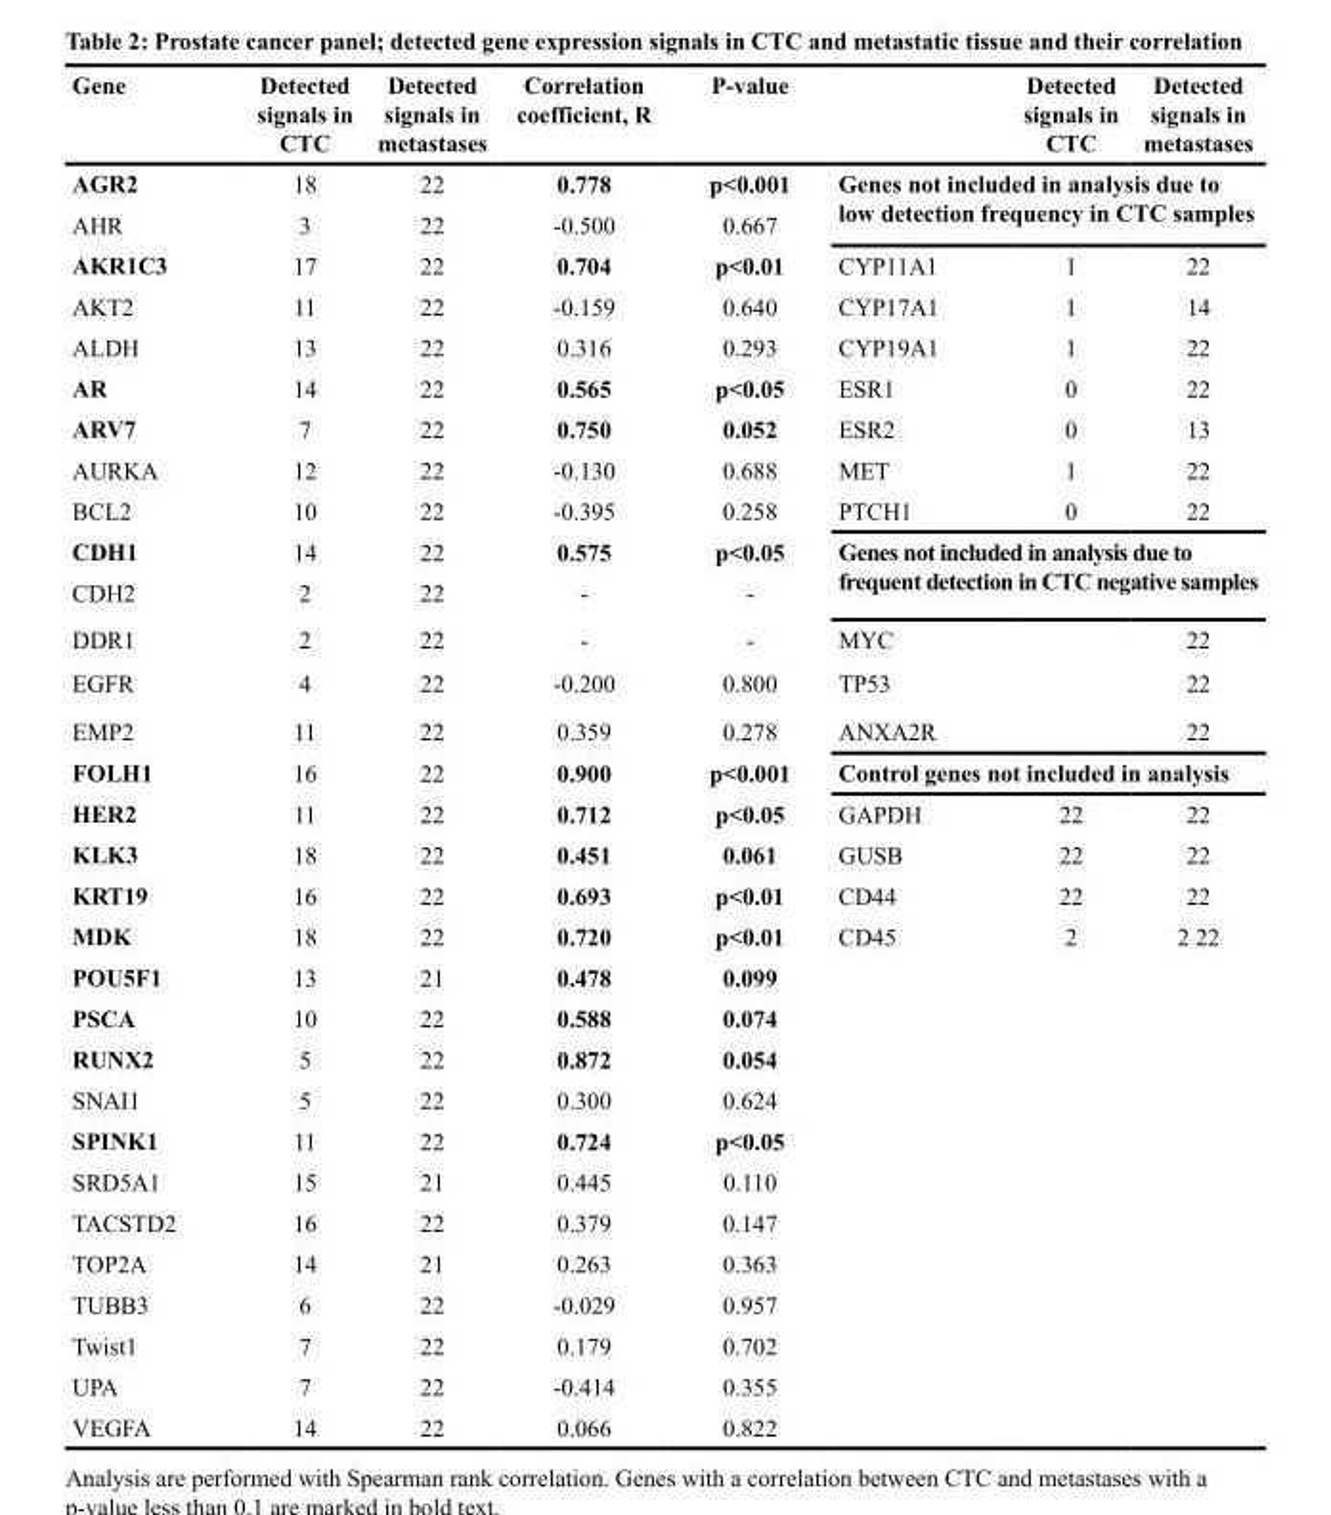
<table><thead><tr><td>Gene</td><td>Detected signals in CTC</td><td>Detected signals in metastases</td><td>Correlation coefficient, R</td><td>P-value</td><td></td><td>Detected signals in CTC</td><td>Detected signals in metastases</td></tr></thead><tbody><tr><td>AGR2</td><td>18</td><td>22</td><td>0.778</td><td>p&lt;0.001</td><td rowspan="2" colspan="3">Genes not included in analysis due to low detection frequency in CTC samples</td></tr><tr><td>AHR</td><td>3</td><td>22</td><td>-0.500</td><td>0.667</td></tr><tr><td>AKR1C3</td><td>17</td><td>22</td><td>0.704</td><td>p&lt;0.01</td><td>CYP11A1</td><td>1</td><td>22</td></tr><tr><td>AKT2</td><td>11</td><td>22</td><td>-0.159</td><td>0.640</td><td>CYP17A1</td><td>1</td><td>14</td></tr><tr><td>ALDH</td><td>13</td><td>22</td><td>0.316</td><td>0.293</td><td>CYP19A1</td><td>1</td><td>22</td></tr><tr><td>AR</td><td>14</td><td>22</td><td>0.565</td><td>p&lt;0.05</td><td>ESR1</td><td>0</td><td>22</td></tr><tr><td>ARV7</td><td>7</td><td>22</td><td>0.750</td><td>0.052</td><td>ESR2</td><td>0</td><td>13</td></tr><tr><td>AURKA</td><td>12</td><td>22</td><td>-0.130</td><td>0.688</td><td>MET</td><td>1</td><td>22</td></tr><tr><td>BCL2</td><td>10</td><td>22</td><td>-0.395</td><td>0.258</td><td>PTCH1</td><td>0</td><td>22</td></tr><tr><td>CDH1</td><td>14</td><td>22</td><td>0.575</td><td>p&lt;0.05</td><td rowspan="2" colspan="3">Genes not included in analysis due to frequent detection in CTC negative samples</td></tr><tr><td>CDH2</td><td>2</td><td>22</td><td>-</td><td>-</td></tr><tr><td>DDR1</td><td>2</td><td>22</td><td>-</td><td>-</td><td>MYC</td><td></td><td>22</td></tr><tr><td>EGFR</td><td>4</td><td>22</td><td>-0.200</td><td>0.800</td><td>TP53</td><td></td><td>22</td></tr><tr><td>EMP2</td><td>11</td><td>22</td><td>0.359</td><td>0.278</td><td>ANXA2R</td><td></td><td>22</td></tr><tr><td>FOLH1</td><td>16</td><td>22</td><td>0.900</td><td>p&lt;0.001</td><td colspan="3">Control genes not included in analysis</td></tr><tr><td>HER2</td><td>11</td><td>22</td><td>0.712</td><td>p&lt;0.05</td><td>GAPDH</td><td>22</td><td>22</td></tr><tr><td>KLK3</td><td>18</td><td>22</td><td>0.451</td><td>0.061</td><td>GUSB</td><td>22</td><td>22</td></tr><tr><td>KRT19</td><td>16</td><td>22</td><td>0.693</td><td>p&lt;0.01</td><td>CD44</td><td>22</td><td>22</td></tr><tr><td>MDK</td><td>18</td><td>22</td><td>0.720</td><td>p&lt;0.01</td><td>CD45</td><td>2</td><td>2 22</td></tr><tr><td>POU5F1</td><td>13</td><td>21</td><td>0.478</td><td>0.099</td><td></td><td></td><td></td></tr><tr><td>PSCA</td><td>10</td><td>22</td><td>0.588</td><td>0.074</td><td></td><td></td><td></td></tr><tr><td>RUNX2</td><td>5</td><td>22</td><td>0.872</td><td>0.054</td><td></td><td></td><td></td></tr><tr><td>SNAI1</td><td>5</td><td>22</td><td>0.300</td><td>0.624</td><td></td><td></td><td></td></tr><tr><td>SPINK1</td><td>11</td><td>22</td><td>0.724</td><td>p&lt;0.05</td><td></td><td></td><td></td></tr><tr><td>SRD5A1</td><td>15</td><td>21</td><td>0.445</td><td>0.110</td><td></td><td></td><td></td></tr><tr><td>TACSTD2</td><td>16</td><td>22</td><td>0.379</td><td>0.147</td><td></td><td></td><td></td></tr><tr><td>TOP2A</td><td>14</td><td>21</td><td>0.263</td><td>0.363</td><td></td><td></td><td></td></tr><tr><td>TUBB3</td><td>6</td><td>22</td><td>-0.029</td><td>0.957</td><td></td><td></td><td></td></tr><tr><td>Twist1</td><td>7</td><td>22</td><td>0.179</td><td>0.702</td><td></td><td></td><td></td></tr><tr><td>UPA</td><td>7</td><td>22</td><td>-0.414</td><td>0.355</td><td></td><td></td><td></td></tr><tr><td>VEGFA</td><td>14</td><td>22</td><td>0.066</td><td>0.822</td><td></td><td></td><td></td></tr></tbody></table>